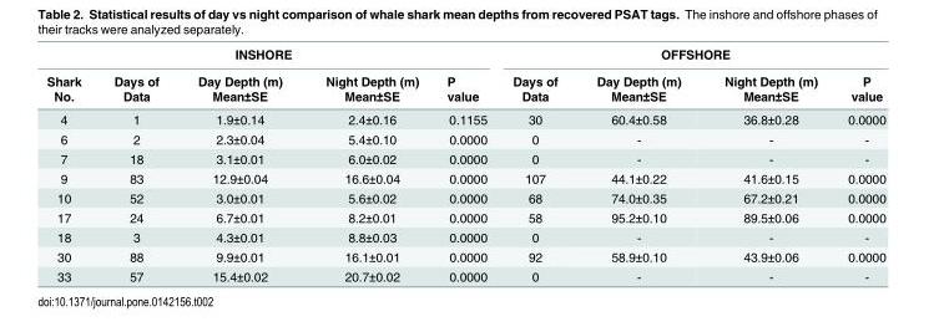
<table><thead><tr><td colspan="5">INSHORE</td><td colspan="4">OFFSHORE</td></tr><tr><td>Shark No.</td><td>Days of Data</td><td>Day Depth (m) Mean±SE</td><td>Night Depth (m) Mean±SE</td><td>P value</td><td>Days of Data</td><td>Day Depth (m) Mean±SE</td><td>Night Depth (m) Mean±SE</td><td>P value</td></tr></thead><tbody><tr><td>4</td><td>1</td><td>1.9±0.14</td><td>2.4±0.16</td><td>0.1155</td><td>30</td><td>60.4±0.58</td><td>36.8±0.28</td><td>0.0000</td></tr><tr><td>6</td><td>2</td><td>2.3±0.04</td><td>5.4±0.10</td><td>0.0000</td><td>0</td><td>-</td><td>-</td><td>-</td></tr><tr><td>7</td><td>18</td><td>3.1±0.01</td><td>6.0±0.02</td><td>0.0000</td><td>0</td><td>-</td><td>-</td><td>-</td></tr><tr><td>9</td><td>83</td><td>12.9±0.04</td><td>16.6±0.04</td><td>0.0000</td><td>107</td><td>44.1±0.22</td><td>41.6±0.15</td><td>0.0000</td></tr><tr><td>10</td><td>52</td><td>3.0±0.01</td><td>5.6±0.02</td><td>0.0000</td><td>68</td><td>74.0±0.35</td><td>67.2±0.21</td><td>0.0000</td></tr><tr><td>17</td><td>24</td><td>6.7±0.01</td><td>8.2±0.01</td><td>0.0000</td><td>58</td><td>95.2±0.10</td><td>89.5±0.06</td><td>0.0000</td></tr><tr><td>18</td><td>3</td><td>4.3±0.01</td><td>8.8±0.03</td><td>0.0000</td><td>0</td><td>-</td><td>-</td><td>-</td></tr><tr><td>30</td><td>88</td><td>9.9±0.01</td><td>16.1±0.01</td><td>0.0000</td><td>92</td><td>58.9±0.10</td><td>43.9±0.06</td><td>0.0000</td></tr><tr><td>33</td><td>57</td><td>15.4±0.02</td><td>20.7±0.02</td><td>0.0000</td><td>0</td><td>-</td><td>-</td><td>-</td></tr></tbody></table>